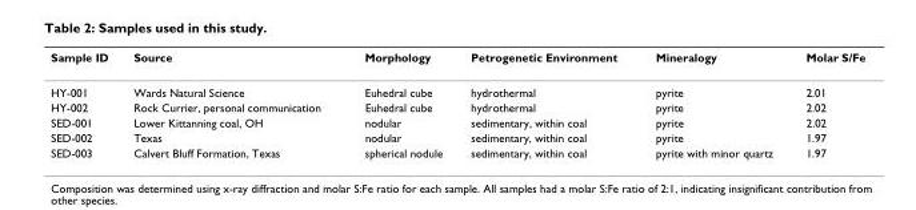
<table><thead><tr><td>Sample ID</td><td>Source</td><td>Morphology</td><td>Petrogenetic Environment</td><td>Mineralogy</td><td>Molar S/Fe</td></tr></thead><tbody><tr><td>HY-001</td><td>Wards Natural Science</td><td>Euhedral cube</td><td>hydrothermal</td><td>pyrite</td><td>2.01</td></tr><tr><td>HY-002</td><td>Rock Currier, personal communication</td><td>Euhedral cube</td><td>hydrothermal</td><td>pyrite</td><td>2.02</td></tr><tr><td>SED-001</td><td>Lower Kittanning coal, OH</td><td>nodular</td><td>sedimentary, within coal</td><td>pyrite</td><td>2.02</td></tr><tr><td>SED-002</td><td>Texas</td><td>nodular</td><td>sedimentary, within coal</td><td>pyrite</td><td>1.97</td></tr><tr><td>SED-003</td><td>Calvert Bluff Formation, Texas</td><td>spherical nodule</td><td>sedimentary, within coal</td><td>pyrite with minor quartz</td><td>1.97</td></tr></tbody></table>